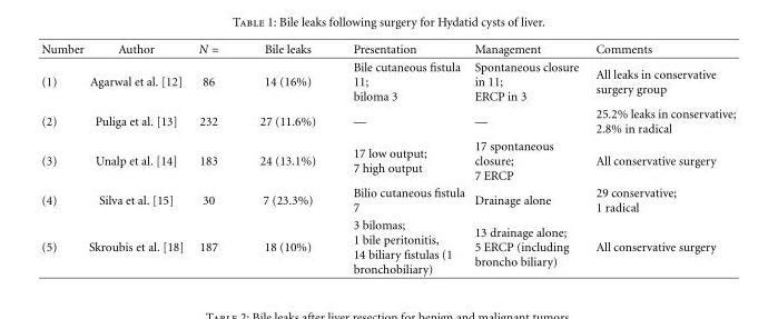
<table><thead><tr><td>Number</td><td>Author</td><td>N =</td><td>Bile leaks</td><td>Presentation</td><td>Management</td><td>Comments</td></tr></thead><tbody><tr><td>(1)</td><td>Agarwal et al. [12]</td><td>86</td><td>14 (16%)</td><td>Bile cutaneous fistula 11; biloma 3</td><td>Spontaneous closure in 11; ERCP in 3</td><td>All leaks in conservative surgery group</td></tr><tr><td>(2)</td><td>Puliga et al. [13]</td><td>232</td><td>27 (11.6%)</td><td>—</td><td>—</td><td>25.2% leaks in conservative; 2.8% in radical</td></tr><tr><td>(3)</td><td>Unalp et al. [14]</td><td>183</td><td>24 (13.1%)</td><td>17 low output; 7 high output</td><td>17 spontaneous closure; 7 ERCP</td><td>All conservative surgery</td></tr><tr><td>(4)</td><td>Silva et al. [15]</td><td>30</td><td>7 (23.3%)</td><td>Bilio cutaneous fistula 7</td><td>Drainage alone</td><td>29 conservative; 1 radical</td></tr><tr><td>(5)</td><td>Skroubis et al. [18]</td><td>187</td><td>18 (10%)</td><td>3 bilomas; 1 bile peritonitis, 14 biliary fistulas (1 bronchobiliary)</td><td>13 drainage alone; 5 ERCP (including broncho biliary)</td><td>All conservative surgery</td></tr></tbody></table>